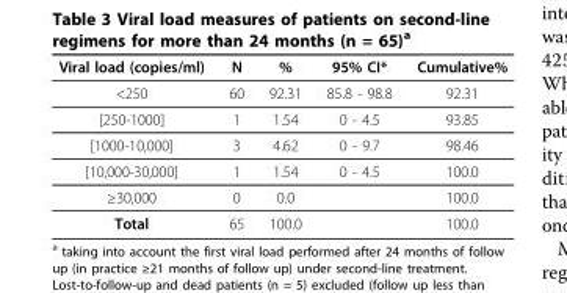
<table><thead><tr><td>Viral load (copies/ml)</td><td>N</td><td>%</td><td>95% CI*</td><td>Cumulative%</td></tr></thead><tbody><tr><td>&lt;250</td><td>60</td><td>92.31</td><td>85.8 - 98.8</td><td>92.31</td></tr><tr><td>[250-1000]</td><td>1</td><td>1.54</td><td>0 - 4.5</td><td>93.85</td></tr><tr><td>[1000-10,000]</td><td>3</td><td>4.62</td><td>0 - 9.7</td><td>98.46</td></tr><tr><td>[10,000-30,000]</td><td>1</td><td>1.54</td><td>0 - 4.5</td><td>100.0</td></tr><tr><td>≥30,000</td><td>0</td><td>0.0</td><td></td><td>100.0</td></tr><tr><td>Total</td><td>65</td><td>100.0</td><td></td><td>100.0</td></tr></tbody></table>